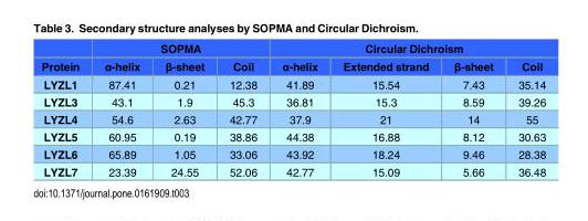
<table><thead><tr><td rowspan="2">Protein</td><td colspan="3">SOPMA</td><td colspan="4">Circular Dichroism</td></tr><tr><td>α-helix</td><td>β-sheet</td><td>Coil</td><td>α-helix</td><td>Extended strand</td><td>β-sheet</td><td>Coil</td></tr></thead><tbody><tr><td>LYZL1</td><td>87.41</td><td>0.21</td><td>12.38</td><td>41.89</td><td>15.54</td><td>7.43</td><td>35.14</td></tr><tr><td>LYZL3</td><td>43.1</td><td>1.9</td><td>45.3</td><td>36.81</td><td>15.3</td><td>8.59</td><td>39.26</td></tr><tr><td>LYZL4</td><td>54.6</td><td>2.63</td><td>42.77</td><td>37.9</td><td>21</td><td>14</td><td>55</td></tr><tr><td>LYZL5</td><td>60.95</td><td>0.19</td><td>38.86</td><td>44.38</td><td>16.88</td><td>8.12</td><td>30.63</td></tr><tr><td>LYZL6</td><td>65.89</td><td>1.05</td><td>33.06</td><td>43.92</td><td>18.24</td><td>9.46</td><td>28.38</td></tr><tr><td>LYZL7</td><td>23.39</td><td>24.55</td><td>52.06</td><td>42.77</td><td>15.09</td><td>5.66</td><td>36.48</td></tr></tbody></table>